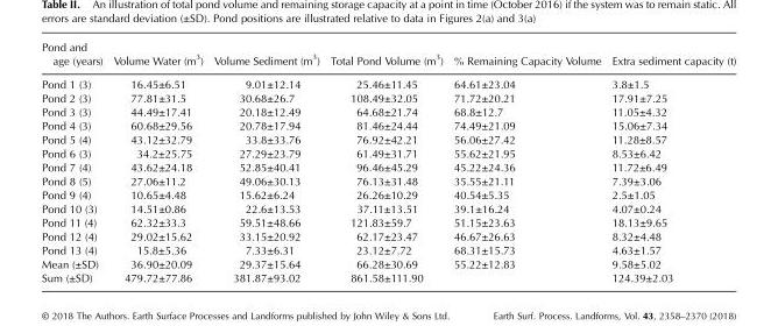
<table><thead><tr><td>Pond and age (years)</td><td>Volume Water (m<sup>3</sup>)</td><td>Volume Sediment (m<sup>3</sup>)</td><td>Total Pond Volume (m<sup>3</sup>)</td><td>% Remaining Capacity Volume</td><td>Extra sediment capacity (t)</td></tr></thead><tbody><tr><td>Pond 1 (3)</td><td>16.45±6.51</td><td>9.01±12.14</td><td>25.46±11.45</td><td>64.61±23.04</td><td>3.8±1.5</td></tr><tr><td>Pond 2 (3)</td><td>77.81±31.5</td><td>30.68±26.7</td><td>108.49±32.05</td><td>71.72±20.21</td><td>17.91±7.25</td></tr><tr><td>Pond 3 (3)</td><td>44.49±17.41</td><td>20.18±12.49</td><td>64.68±21.74</td><td>68.8±12.7</td><td>11.05±4.32</td></tr><tr><td>Pond 4 (3)</td><td>60.68±29.56</td><td>20.78±17.94</td><td>81.46±24.44</td><td>74.49±21.09</td><td>15.06±7.34</td></tr><tr><td>Pond 5 (4)</td><td>43.12±32.79</td><td>33.8±33.76</td><td>76.92±42.21</td><td>56.06±27.42</td><td>11.28±8.57</td></tr><tr><td>Pond 6 (3)</td><td>34.2±25.75</td><td>27.29±23.79</td><td>61.49±31.71</td><td>55.62±21.95</td><td>8.53±6.42</td></tr><tr><td>Pond 7 (4)</td><td>43.62±24.18</td><td>52.85±40.41</td><td>96.46±45.29</td><td>45.22±24.36</td><td>11.72±6.49</td></tr><tr><td>Pond 8 (5)</td><td>27.06±11.2</td><td>49.06±30.13</td><td>76.13±31.48</td><td>35.55±21.11</td><td>7.39±3.06</td></tr><tr><td>Pond 9 (4)</td><td>10.65±4.48</td><td>15.62±6.24</td><td>26.26±10.29</td><td>40.54±5.35</td><td>2.5±1.05</td></tr><tr><td>Pond 10 (3)</td><td>14.51±0.86</td><td>22.6±13.53</td><td>37.11±13.51</td><td>39.1±16.24</td><td>4.07±0.24</td></tr><tr><td>Pond 11 (4)</td><td>62.32±33.3</td><td>59.51±48.66</td><td>121.83±59.7</td><td>51.15±23.63</td><td>18.13±9.65</td></tr><tr><td>Pond 12 (4)</td><td>29.02±15.62</td><td>33.15±20.92</td><td>62.17±23.47</td><td>46.67±26.63</td><td>8.32±4.48</td></tr><tr><td>Pond 13 (4)</td><td>15.8±5.36</td><td>7.33±6.31</td><td>23.12±7.72</td><td>68.31±15.73</td><td>4.63±1.57</td></tr><tr><td>Mean (±SD)</td><td>36.90±20.09</td><td>29.37±15.64</td><td>66.28±30.69</td><td>55.22±12.83</td><td>9.58±5.02</td></tr><tr><td>Sum (±SD)</td><td>479.72±77.86</td><td>381.87±93.02</td><td>861.58±111.90</td><td></td><td>124.39±2.03</td></tr></tbody></table>